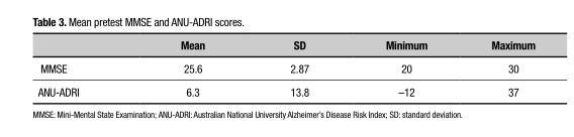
<table><thead><tr><td></td><td>Mean</td><td>SD</td><td>Minimum</td><td>Maximum</td></tr></thead><tbody><tr><td>MMSE</td><td>25.6</td><td>2.87</td><td>20</td><td>30</td></tr><tr><td>ANU-ADRI</td><td>6.3</td><td>13.8</td><td>–12</td><td>37</td></tr></tbody></table>